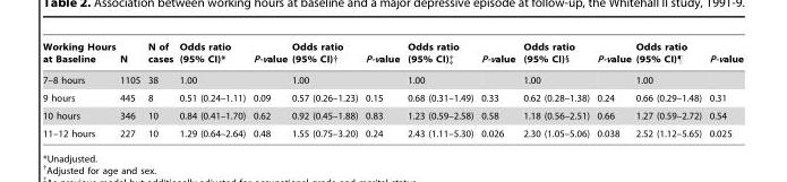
<table><thead><tr><td>Working Hours at Baseline</td><td>N</td><td>N of cases</td><td>Odds ratio (95% CI)*</td><td>P-value</td><td>Odds ratio (95% CI)†</td><td>P-value</td><td>Odds ratio (95% CI)‡</td><td>P-value</td><td>Odds ratio (95% CI)§</td><td>P-value</td><td>Odds ratio (95% CI)¶</td><td>P-value</td></tr></thead><tbody><tr><td>7–8 hours</td><td>1105</td><td>38</td><td>1.00</td><td></td><td>1.00</td><td></td><td>1.00</td><td></td><td>1.00</td><td></td><td>1.00</td><td></td></tr><tr><td>9 hours</td><td>445</td><td>8</td><td>0.51 (0.24–1.11)</td><td>0.09</td><td>0.57 (0.26–1.23)</td><td>0.15</td><td>0.68 (0.31–1.49)</td><td>0.33</td><td>0.62 (0.28–1.38)</td><td>0.24</td><td>0.66 (0.29–1.48)</td><td>0.31</td></tr><tr><td>10 hours</td><td>346</td><td>10</td><td>0.84 (0.41–1.70)</td><td>0.62</td><td>0.92 (0.45–1.88)</td><td>0.83</td><td>1.23 (0.59–2.58)</td><td>0.58</td><td>1.18 (0.56–2.51)</td><td>0.66</td><td>1.27 (0.59–2.72)</td><td>0.54</td></tr><tr><td>11–12 hours</td><td>227</td><td>10</td><td>1.29 (0.64–2.64)</td><td>0.48</td><td>1.55 (0.75–3.20)</td><td>0.24</td><td>2.43 (1.11–5.30)</td><td>0.026</td><td>2.30 (1.05–5.06)</td><td>0.038</td><td>2.52 (1.12–5.65)</td><td>0.025</td></tr></tbody></table>